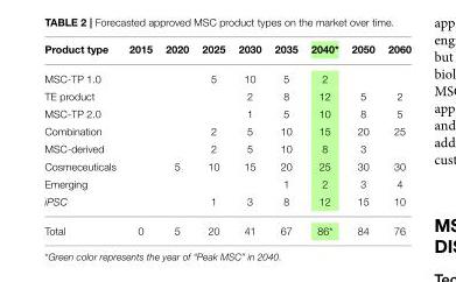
<table><thead><tr><td>Product type</td><td>2015</td><td>2020</td><td>2025</td><td>2030</td><td>2035</td><td>2040*</td><td>2050</td><td>2060</td></tr></thead><tbody><tr><td>MSC-TP 1.0</td><td></td><td></td><td>5</td><td>10</td><td>5</td><td>2</td><td></td><td></td></tr><tr><td>TE product</td><td></td><td></td><td></td><td>2</td><td>8</td><td>12</td><td>5</td><td>2</td></tr><tr><td>MSC-TP 2.0</td><td></td><td></td><td></td><td>1</td><td>5</td><td>10</td><td>8</td><td>5</td></tr><tr><td>Combination</td><td></td><td></td><td>2</td><td>5</td><td>10</td><td>15</td><td>20</td><td>25</td></tr><tr><td>MSC-derived</td><td></td><td></td><td>2</td><td>5</td><td>10</td><td>8</td><td>3</td><td></td></tr><tr><td>Cosmeceuticals</td><td></td><td>5</td><td>10</td><td>15</td><td>20</td><td>25</td><td>30</td><td>30</td></tr><tr><td>Emerging</td><td></td><td></td><td></td><td></td><td>1</td><td>2</td><td>3</td><td>4</td></tr><tr><td>iPSC</td><td></td><td></td><td>1</td><td>3</td><td>8</td><td>12</td><td>15</td><td>10</td></tr><tr><td>Total</td><td>0</td><td>5</td><td>20</td><td>41</td><td>67</td><td>86*</td><td>84</td><td>76</td></tr></tbody></table>